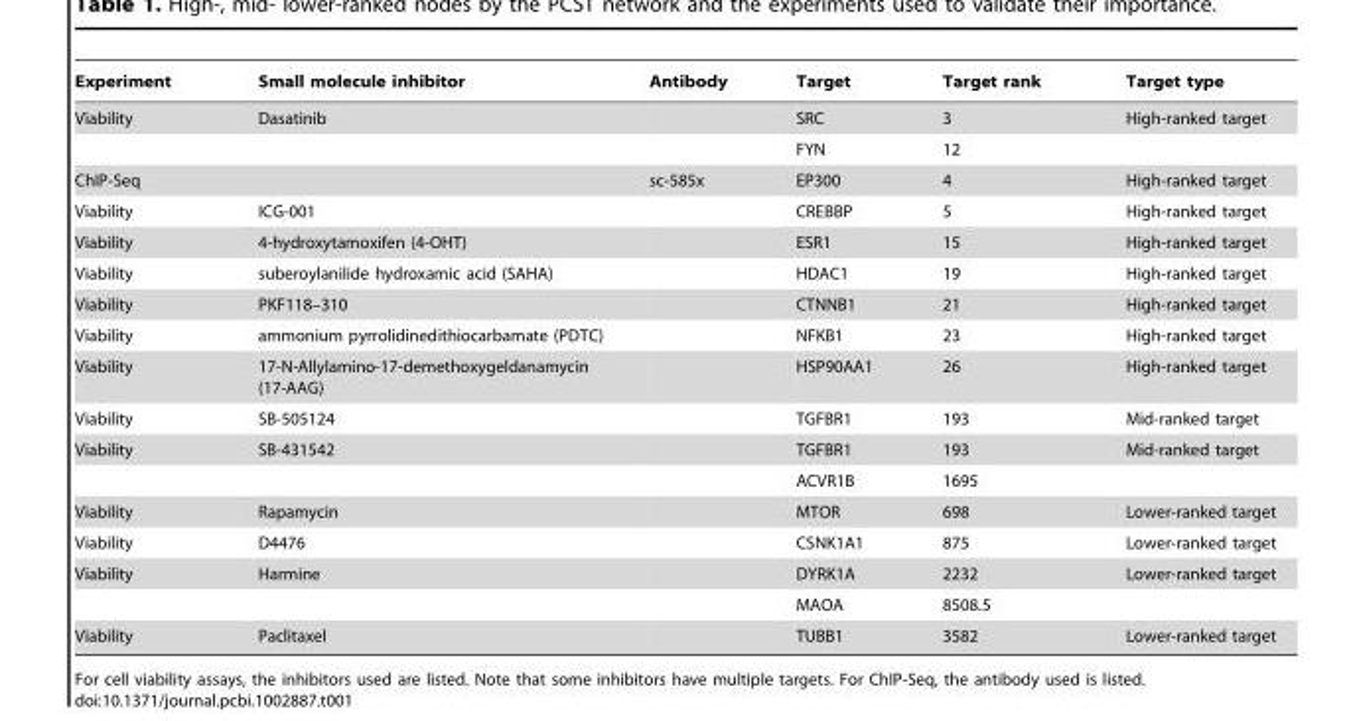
<table><thead><tr><td>Experiment</td><td>Small molecule inhibitor</td><td>Antibody</td><td>Target</td><td>Target rank</td><td>Target type</td></tr></thead><tbody><tr><td rowspan="2">Viability</td><td>Dasatinib</td><td></td><td>SRC</td><td>3</td><td>High-ranked target</td></tr><tr><td></td><td></td><td>FYN</td><td>12</td><td></td></tr><tr><td>ChIP-Seq</td><td></td><td>sc-585x</td><td>EP300</td><td>4</td><td>High-ranked target</td></tr><tr><td>Viability</td><td>ICG-001</td><td></td><td>CREBBP</td><td>5</td><td>High-ranked target</td></tr><tr><td>Viability</td><td>4-hydroxytamoxifen (4-OHT)</td><td></td><td>ESR1</td><td>15</td><td>High-ranked target</td></tr><tr><td>Viability</td><td>suberoylanilide hydroxamic acid (SAHA)</td><td></td><td>HDAC1</td><td>19</td><td>High-ranked target</td></tr><tr><td>Viability</td><td>PKF118–310</td><td></td><td>CTNNB1</td><td>21</td><td>High-ranked target</td></tr><tr><td>Viability</td><td>ammonium pyrrolidinedithiocarbamate (PDTC)</td><td></td><td>NFKB1</td><td>23</td><td>High-ranked target</td></tr><tr><td>Viability</td><td>17-N-Allylamino-17-demethoxygeldanamycin (17-AAG)</td><td></td><td>HSP90AA1</td><td>26</td><td>High-ranked target</td></tr><tr><td>Viability</td><td>SB-505124</td><td></td><td>TGFBR1</td><td>193</td><td>Mid-ranked target</td></tr><tr><td rowspan="2">Viability</td><td>SB-431542</td><td></td><td>TGFBR1</td><td>193</td><td>Mid-ranked target</td></tr><tr><td></td><td></td><td>ACVR1B</td><td>1695</td><td></td></tr><tr><td>Viability</td><td>Rapamycin</td><td></td><td>MTOR</td><td>698</td><td>Lower-ranked target</td></tr><tr><td>Viability</td><td>D4476</td><td></td><td>CSNK1A1</td><td>875</td><td>Lower-ranked target</td></tr><tr><td rowspan="2">Viability</td><td>Harmine</td><td></td><td>DYRK1A</td><td>2232</td><td>Lower-ranked target</td></tr><tr><td></td><td></td><td>MAOA</td><td>8508.5</td><td></td></tr><tr><td>Viability</td><td>Paclitaxel</td><td></td><td>TUBB1</td><td>3582</td><td>Lower-ranked target</td></tr></tbody></table>